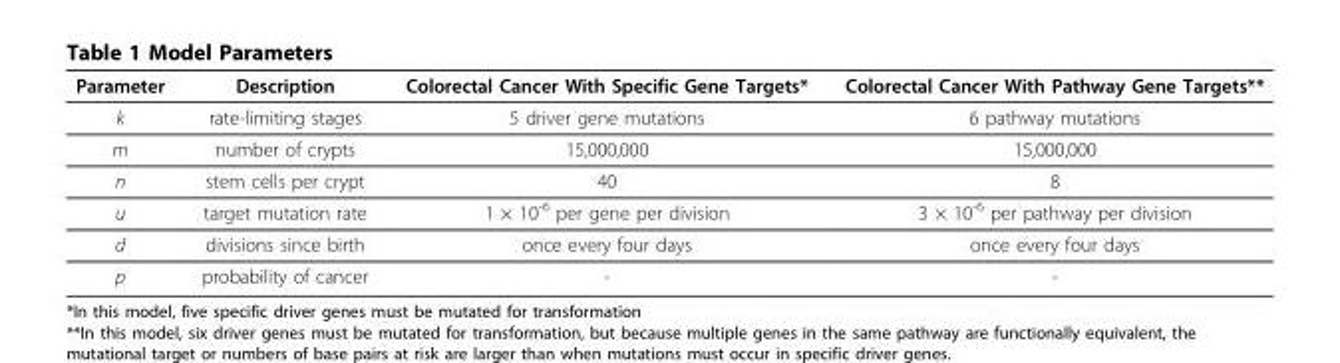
<table><thead><tr><td>Parameter</td><td>Description</td><td>Colorectal Cancer With Specific Gene Targets*</td><td>Colorectal Cancer With Pathway Gene Targets**</td></tr></thead><tbody><tr><td>k</td><td>rate-limiting stages</td><td>5 driver gene mutations</td><td>6 pathway mutations</td></tr><tr><td>m</td><td>number of crypts</td><td>15,000,000</td><td>15,000,000</td></tr><tr><td>n</td><td>stem cells per crypt</td><td>40</td><td>8</td></tr><tr><td>u</td><td>target mutation rate</td><td>1 × 10<sup>-6</sup> per gene per division</td><td>3 × 10<sup>-6</sup> per pathway per division</td></tr><tr><td>d</td><td>divisions since birth</td><td>once every four days</td><td>once every four days</td></tr><tr><td>p</td><td>probability of cancer</td><td>-</td><td>-</td></tr></tbody></table>